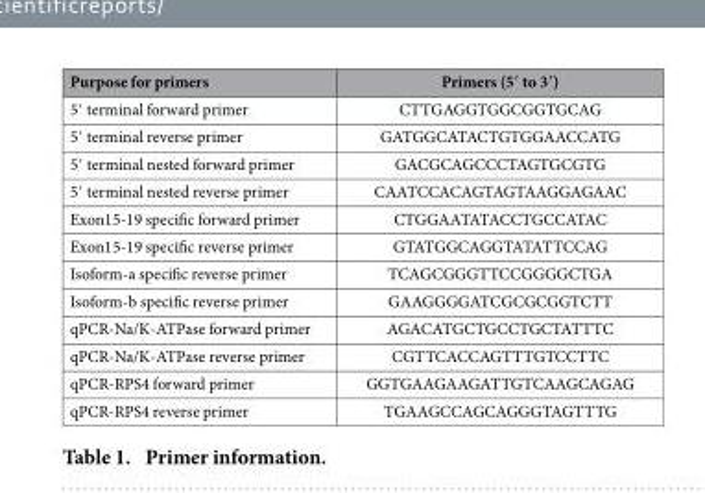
<table><thead><tr><td>Purpose for primers</td><td>Primers (5′ to 3′)</td></tr></thead><tbody><tr><td>5′ terminal forward primer</td><td>CTTGAGGTGGCGGTGCAG</td></tr><tr><td>5′ terminal reverse primer</td><td>GATGGCATACTGTGGAACCATG</td></tr><tr><td>5′ terminal nested forward primer</td><td>GACGCAGCCCTAGTGCGTG</td></tr><tr><td>5′ terminal nested reverse primer</td><td>CAATCCACAGTAGTAAGGAGAAC</td></tr><tr><td>Exon15-19 specific forward primer</td><td>CTGGAATATACCTGCCATAC</td></tr><tr><td>Exon15-19 specific reverse primer</td><td>GTATGGCAGGTATATTCCAG</td></tr><tr><td>Isoform-a specific reverse primer</td><td>TCAGCGGGTTCCGGGGCTGA</td></tr><tr><td>Isoform-b specific reverse primer</td><td>GAAGGGGATCGCGCGGTCTT</td></tr><tr><td>qPCR-Na/K-ATPase forward primer</td><td>AGACATGCTGCCTGCTATTTC</td></tr><tr><td>qPCR-Na/K-ATPase reverse primer</td><td>CGTTCACCAGTTTGTCCTTC</td></tr><tr><td>qPCR-RPS4 forward primer</td><td>GGTGAAGAAGATTGTCAAGCAGAG</td></tr><tr><td>qPCR-RPS4 reverse primer</td><td>TGAAGCCAGCAGGGTAGTTTG</td></tr></tbody></table>